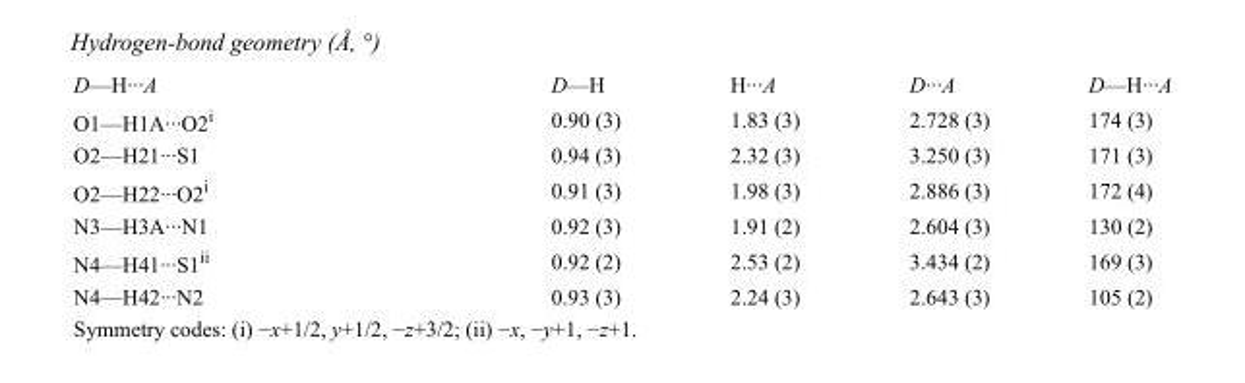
<table><tbody><tr><td>D—H···A</td><td>D—H</td><td>H···A</td><td>D···A</td><td>D—H···A</td></tr><tr><td>O1—H1A···O2<sup>i</sup></td><td>0.90 (3)</td><td>1.83 (3)</td><td>2.728 (3)</td><td>174 (3)</td></tr><tr><td>O2—H21···S1</td><td>0.94 (3)</td><td>2.32 (3)</td><td>3.250 (3)</td><td>171 (3)</td></tr><tr><td>O2—H22···O2<sup>i</sup></td><td>0.91 (3)</td><td>1.98 (3)</td><td>2.886 (3)</td><td>172 (4)</td></tr><tr><td>N3—H3A···N1</td><td>0.92 (3)</td><td>1.91 (2)</td><td>2.604 (3)</td><td>130 (2)</td></tr><tr><td>N4—H41···S1<sup>ii</sup></td><td>0.92 (2)</td><td>2.53 (2)</td><td>3.434 (2)</td><td>169 (3)</td></tr><tr><td>N4—H42···N2</td><td>0.93 (3)</td><td>2.24 (3)</td><td>2.643 (3)</td><td>105 (2)</td></tr></tbody></table>